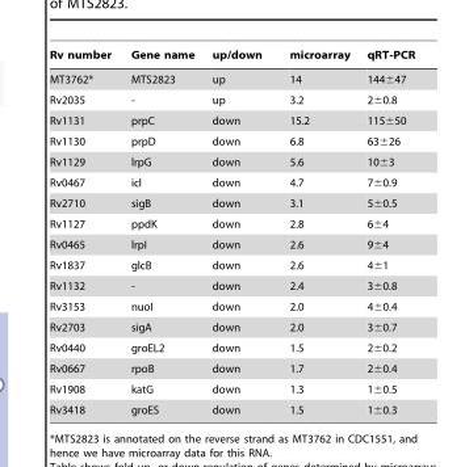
<table><thead><tr><td>Rv number</td><td>Gene name</td><td>up/down</td><td>microarray</td><td>qRT-PCR</td></tr></thead><tbody><tr><td>MT3762*</td><td>MTS2823</td><td>up</td><td>14</td><td>144±47</td></tr><tr><td>Rv2035</td><td>-</td><td>up</td><td>3.2</td><td>2±0.8</td></tr><tr><td>Rv1131</td><td>prpC</td><td>down</td><td>15.2</td><td>115±50</td></tr><tr><td>Rv1130</td><td>prpD</td><td>down</td><td>6.8</td><td>63±26</td></tr><tr><td>Rv1129</td><td>lrpG</td><td>down</td><td>5.6</td><td>10±3</td></tr><tr><td>Rv0467</td><td>icl</td><td>down</td><td>4.7</td><td>7±0.9</td></tr><tr><td>Rv2710</td><td>sigB</td><td>down</td><td>3.1</td><td>5±0.5</td></tr><tr><td>Rv1127</td><td>ppdK</td><td>down</td><td>2.8</td><td>6±4</td></tr><tr><td>Rv0465</td><td>lrpI</td><td>down</td><td>2.6</td><td>9±4</td></tr><tr><td>Rv1837</td><td>glcB</td><td>down</td><td>2.6</td><td>4±1</td></tr><tr><td>Rv1132</td><td>-</td><td>down</td><td>2.4</td><td>3±0.8</td></tr><tr><td>Rv3153</td><td>nuoI</td><td>down</td><td>2.0</td><td>4±0.4</td></tr><tr><td>Rv2703</td><td>sigA</td><td>down</td><td>2.0</td><td>3±0.7</td></tr><tr><td>Rv0440</td><td>groEL2</td><td>down</td><td>1.5</td><td>2±0.2</td></tr><tr><td>Rv0667</td><td>rpoB</td><td>down</td><td>1.7</td><td>2±0.4</td></tr><tr><td>Rv1908</td><td>katG</td><td>down</td><td>1.3</td><td>1±0.5</td></tr><tr><td>Rv3418</td><td>groES</td><td>down</td><td>1.5</td><td>1±0.3</td></tr></tbody></table>